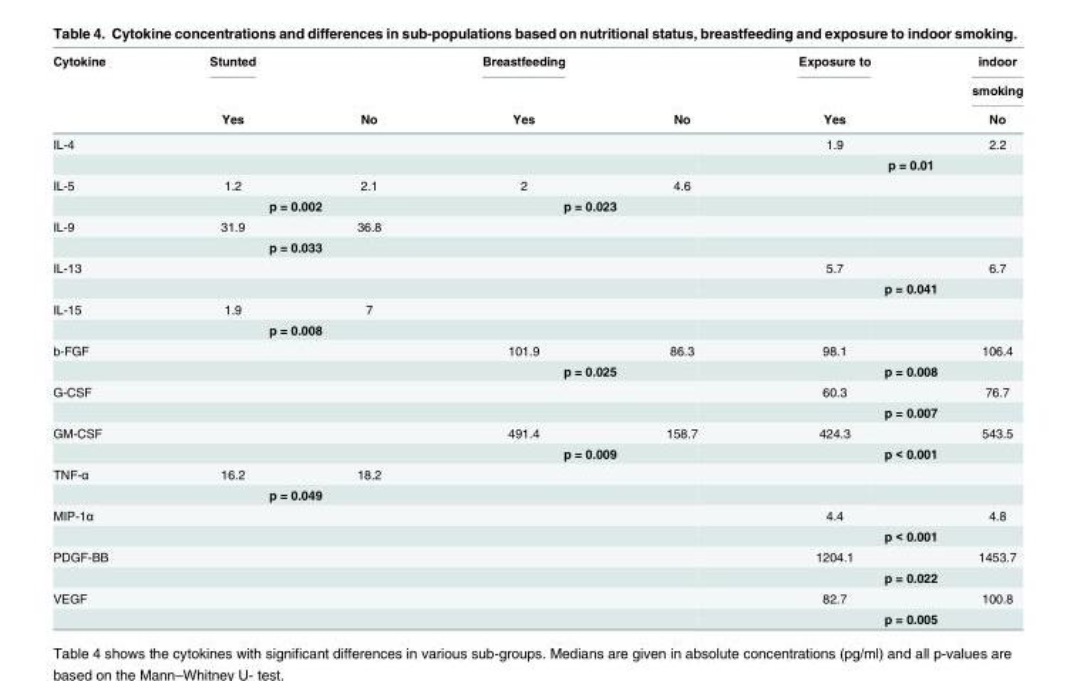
<table><thead><tr><td rowspan="3">Cytokine</td><td rowspan="3">Stunted Yes</td><td rowspan="3">No</td><td rowspan="3">Breastfeeding Yes</td><td rowspan="3">No</td><td rowspan="3">Exposure to Yes</td><td rowspan="3">indoor smoking No</td></tr><tr></tr><tr></tr></thead><tbody><tr><td rowspan="2">IL-4</td><td></td><td></td><td></td><td></td><td>1.9</td><td>2.2</td></tr><tr><td></td><td></td><td></td><td></td><td colspan="2">p = 0.01</td></tr><tr><td rowspan="2">IL-5</td><td>1.2</td><td>2.1</td><td>2</td><td>4.6</td><td></td><td></td></tr><tr><td colspan="2">p = 0.002</td><td colspan="2">p = 0.023</td><td></td><td></td></tr><tr><td rowspan="2">IL-9</td><td>31.9</td><td>36.8</td><td></td><td></td><td></td><td></td></tr><tr><td colspan="2">p = 0.033</td><td></td><td></td><td></td><td></td></tr><tr><td rowspan="2">IL-13</td><td></td><td></td><td></td><td></td><td>5.7</td><td>6.7</td></tr><tr><td></td><td></td><td></td><td></td><td colspan="2">p = 0.041</td></tr><tr><td rowspan="2">IL-15</td><td>1.9</td><td>7</td><td></td><td></td><td></td><td></td></tr><tr><td colspan="2">p = 0.008</td><td></td><td></td><td></td><td></td></tr><tr><td rowspan="2">b-FGF</td><td></td><td></td><td>101.9</td><td>86.3</td><td>98.1</td><td>106.4</td></tr><tr><td></td><td></td><td colspan="2">p = 0.025</td><td colspan="2">p = 0.008</td></tr><tr><td rowspan="2">G-CSF</td><td></td><td></td><td></td><td></td><td>60.3</td><td>76.7</td></tr><tr><td></td><td></td><td></td><td></td><td colspan="2">p = 0.007</td></tr><tr><td rowspan="2">GM-CSF</td><td></td><td></td><td>491.4</td><td>158.7</td><td>424.3</td><td>543.5</td></tr><tr><td></td><td></td><td colspan="2">p = 0.009</td><td colspan="2">p &lt; 0.001</td></tr><tr><td rowspan="2">TNF-α</td><td>16.2</td><td>18.2</td><td></td><td></td><td></td><td></td></tr><tr><td colspan="2">p = 0.049</td><td></td><td></td><td></td><td></td></tr><tr><td rowspan="2">MIP-1α</td><td></td><td></td><td></td><td></td><td>4.4</td><td>4.8</td></tr><tr><td></td><td></td><td></td><td></td><td>p &lt;</td><td>0.001</td></tr><tr><td rowspan="2">PDGF-BB</td><td></td><td></td><td></td><td></td><td>1204.1</td><td>1453.7</td></tr><tr><td></td><td></td><td></td><td></td><td colspan="2">p = 0.022</td></tr><tr><td rowspan="2">VEGF</td><td></td><td></td><td></td><td></td><td>82.7</td><td>100.8</td></tr><tr><td></td><td></td><td></td><td></td><td colspan="2">p = 0.005</td></tr></tbody></table>